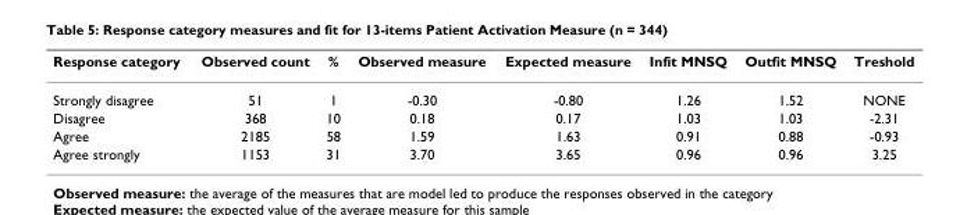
<table><thead><tr><td>Response category</td><td>Observed count</td><td>%</td><td>Observed measure</td><td>Expected measure</td><td>Infit MNSQ</td><td>Outfit MNSQ</td><td>Treshold</td></tr></thead><tbody><tr><td>Strongly disagree</td><td>51</td><td>1</td><td>-0.30</td><td>-0.80</td><td>1.26</td><td>1.52</td><td>NONE</td></tr><tr><td>Disagree</td><td>368</td><td>10</td><td>0.18</td><td>0.17</td><td>1.03</td><td>1.03</td><td>-2.31</td></tr><tr><td>Agree</td><td>2185</td><td>58</td><td>1.59</td><td>1.63</td><td>0.91</td><td>0.88</td><td>-0.93</td></tr><tr><td>Agree strongly</td><td>1153</td><td>31</td><td>3.70</td><td>3.65</td><td>0.96</td><td>0.96</td><td>3.25</td></tr></tbody></table>